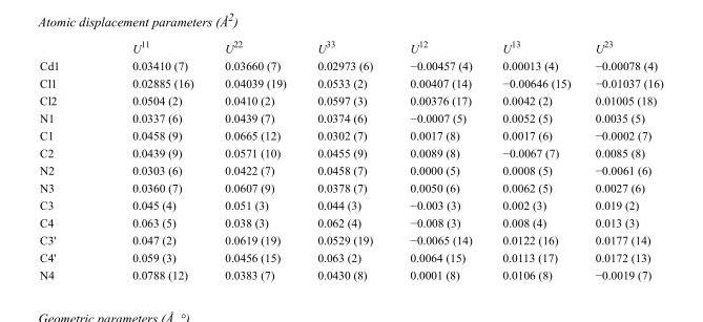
<table><thead><tr><td></td><td>U<sup>11</sup></td><td>U<sup>22</sup></td><td>U<sup>33</sup></td><td>U<sup>12</sup></td><td>U<sup>13</sup></td><td>U<sup>23</sup></td></tr></thead><tbody><tr><td>Cd1</td><td>0.03410 (7)</td><td>0.03660 (7)</td><td>0.02973 (6)</td><td>−0.00457 (4)</td><td>0.00013 (4)</td><td>−0.00078 (4)</td></tr><tr><td>Cl1</td><td>0.02885 (16)</td><td>0.04039 (19)</td><td>0.0533 (2)</td><td>0.00407 (14)</td><td>−0.00646 (15)</td><td>−0.01037 (16)</td></tr><tr><td>Cl2</td><td>0.0504 (2)</td><td>0.0410 (2)</td><td>0.0597 (3)</td><td>0.00376 (17)</td><td>0.0042 (2)</td><td>0.01005 (18)</td></tr><tr><td>N1</td><td>0.0337 (6)</td><td>0.0439 (7)</td><td>0.0374 (6)</td><td>−0.0007 (5)</td><td>0.0052 (5)</td><td>0.0035 (5)</td></tr><tr><td>C1</td><td>0.0458 (9)</td><td>0.0665 (12)</td><td>0.0302 (7)</td><td>0.0017 (8)</td><td>0.0017 (6)</td><td>−0.0002 (7)</td></tr><tr><td>C2</td><td>0.0439 (9)</td><td>0.0571 (10)</td><td>0.0455 (9)</td><td>0.0089 (8)</td><td>−0.0067 (7)</td><td>0.0085 (8)</td></tr><tr><td>N2</td><td>0.0303 (6)</td><td>0.0422 (7)</td><td>0.0458 (7)</td><td>0.0000 (5)</td><td>0.0008 (5)</td><td>−0.0061 (6)</td></tr><tr><td>N3</td><td>0.0360 (7)</td><td>0.0607 (9)</td><td>0.0378 (7)</td><td>0.0050 (6)</td><td>0.0062 (5)</td><td>0.0027 (6)</td></tr><tr><td>C3</td><td>0.045 (4)</td><td>0.051 (3)</td><td>0.044 (3)</td><td>−0.003 (3)</td><td>0.002 (3)</td><td>0.019 (2)</td></tr><tr><td>C4</td><td>0.063 (5)</td><td>0.038 (3)</td><td>0.062 (4)</td><td>−0.008 (3)</td><td>0.008 (4)</td><td>0.013 (3)</td></tr><tr><td>C3&#x27;</td><td>0.047 (2)</td><td>0.0619 (19)</td><td>0.0529 (19)</td><td>−0.0065 (14)</td><td>0.0122 (16)</td><td>0.0177 (14)</td></tr><tr><td>C4&#x27;</td><td>0.059 (3)</td><td>0.0456 (15)</td><td>0.063 (2)</td><td>0.0064 (15)</td><td>0.0113 (17)</td><td>0.0172 (13)</td></tr><tr><td>N4</td><td>0.0788 (12)</td><td>0.0383 (7)</td><td>0.0430 (8)</td><td>0.0001 (8)</td><td>0.0106 (8)</td><td>−0.0019 (7)</td></tr></tbody></table>